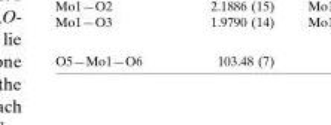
<table><tbody><tr><td>O5—Mo1—O6</td><td>103.48 (7)</td></tr></tbody></table>